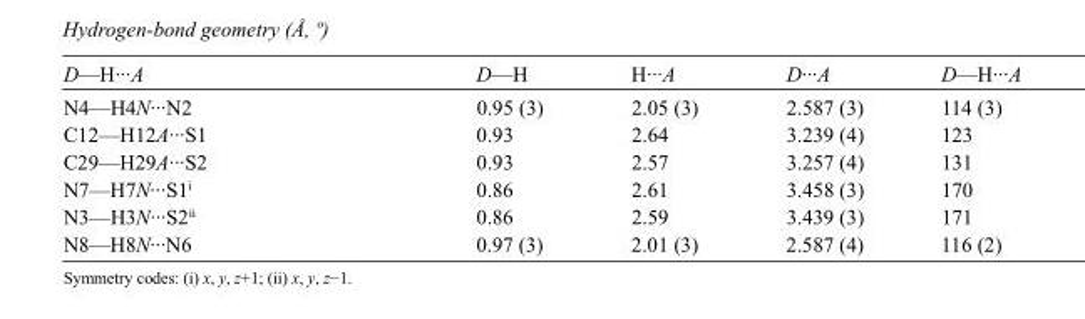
<table><tbody><tr><td>D—H···A</td><td>D—H</td><td>H···A</td><td>D···A</td><td>D—H···A</td></tr><tr><td>N4—H4N···N2</td><td>0.95 (3)</td><td>2.05 (3)</td><td>2.587 (3)</td><td>114 (3)</td></tr><tr><td>C12—H12A···S1</td><td>0.93</td><td>2.64</td><td>3.239 (4)</td><td>123</td></tr><tr><td>C29—H29A···S2</td><td>0.93</td><td>2.57</td><td>3.257 (4)</td><td>131</td></tr><tr><td>N7—H7N···S1<sup>i</sup></td><td>0.86</td><td>2.61</td><td>3.458 (3)</td><td>170</td></tr><tr><td>N3—H3N···S2<sup>ii</sup></td><td>0.86</td><td>2.59</td><td>3.439 (3)</td><td>171</td></tr><tr><td>N8—H8N···N6</td><td>0.97 (3)</td><td>2.01 (3)</td><td>2.587 (4)</td><td>116 (2)</td></tr></tbody></table>